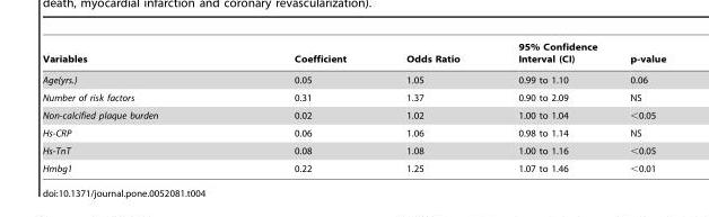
<table><thead><tr><td>Variables</td><td>Coefficient</td><td>Odds Ratio</td><td>95% Confidence Interval (CI)</td><td>p-value</td></tr></thead><tbody><tr><td>Age(yrs.)</td><td>0.05</td><td>1.05</td><td>0.99 to 1.10</td><td>0.06</td></tr><tr><td>Number of risk factors</td><td>0.31</td><td>1.37</td><td>0.90 to 2.09</td><td>NS</td></tr><tr><td>Non-calcified plaque burden</td><td>0.02</td><td>1.02</td><td>1.00 to 1.04</td><td>&lt;0.05</td></tr><tr><td>Hs-CRP</td><td>0.06</td><td>1.06</td><td>0.98 to 1.14</td><td>NS</td></tr><tr><td>Hs-TnT</td><td>0.08</td><td>1.08</td><td>1.00 to 1.16</td><td>&lt;0.05</td></tr><tr><td>Hmbg1</td><td>0.22</td><td>1.25</td><td>1.07 to 1.46</td><td>&lt;0.01</td></tr></tbody></table>